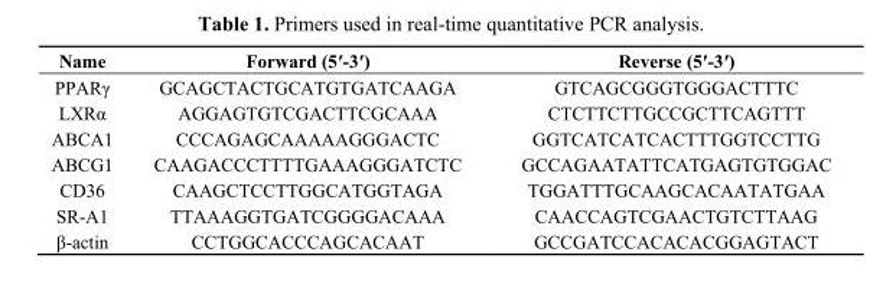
<table><thead><tr><td>Name</td><td>Forward (5′-3′)</td><td>Reverse (5′-3′)</td></tr></thead><tbody><tr><td>PPARγ</td><td>GCAGCTACTGCATGTGATCAAGA</td><td>GTCAGCGGGTGGGACTTTC</td></tr><tr><td>LXRα</td><td>AGGAGTGTCGACTTCGCAAA</td><td>CTCTTCTTGCCGCTTCAGTTT</td></tr><tr><td>ABCA1</td><td>CCCAGAGCAAAAAGGGACTC</td><td>GGTCATCATCACTTTGGTCCTTG</td></tr><tr><td>ABCG1</td><td>CAAGACCCTTTTGAAAGGGATCTC</td><td>GCCAGAATATTCATGAGTGTGGAC</td></tr><tr><td>CD36</td><td>CAAGCTCCTTGGCATGGTAGA</td><td>TGGATTTGCAAGCACAATATGAA</td></tr><tr><td>SR-A1</td><td>TTAAAGGTGATCGGGGACAAA</td><td>CAACCAGTCGAACTGTCTTAAG</td></tr><tr><td>β-actin</td><td>CCTGGCACCCAGCACAAT</td><td>GCCGATCCACACACGGAGTACT</td></tr></tbody></table>